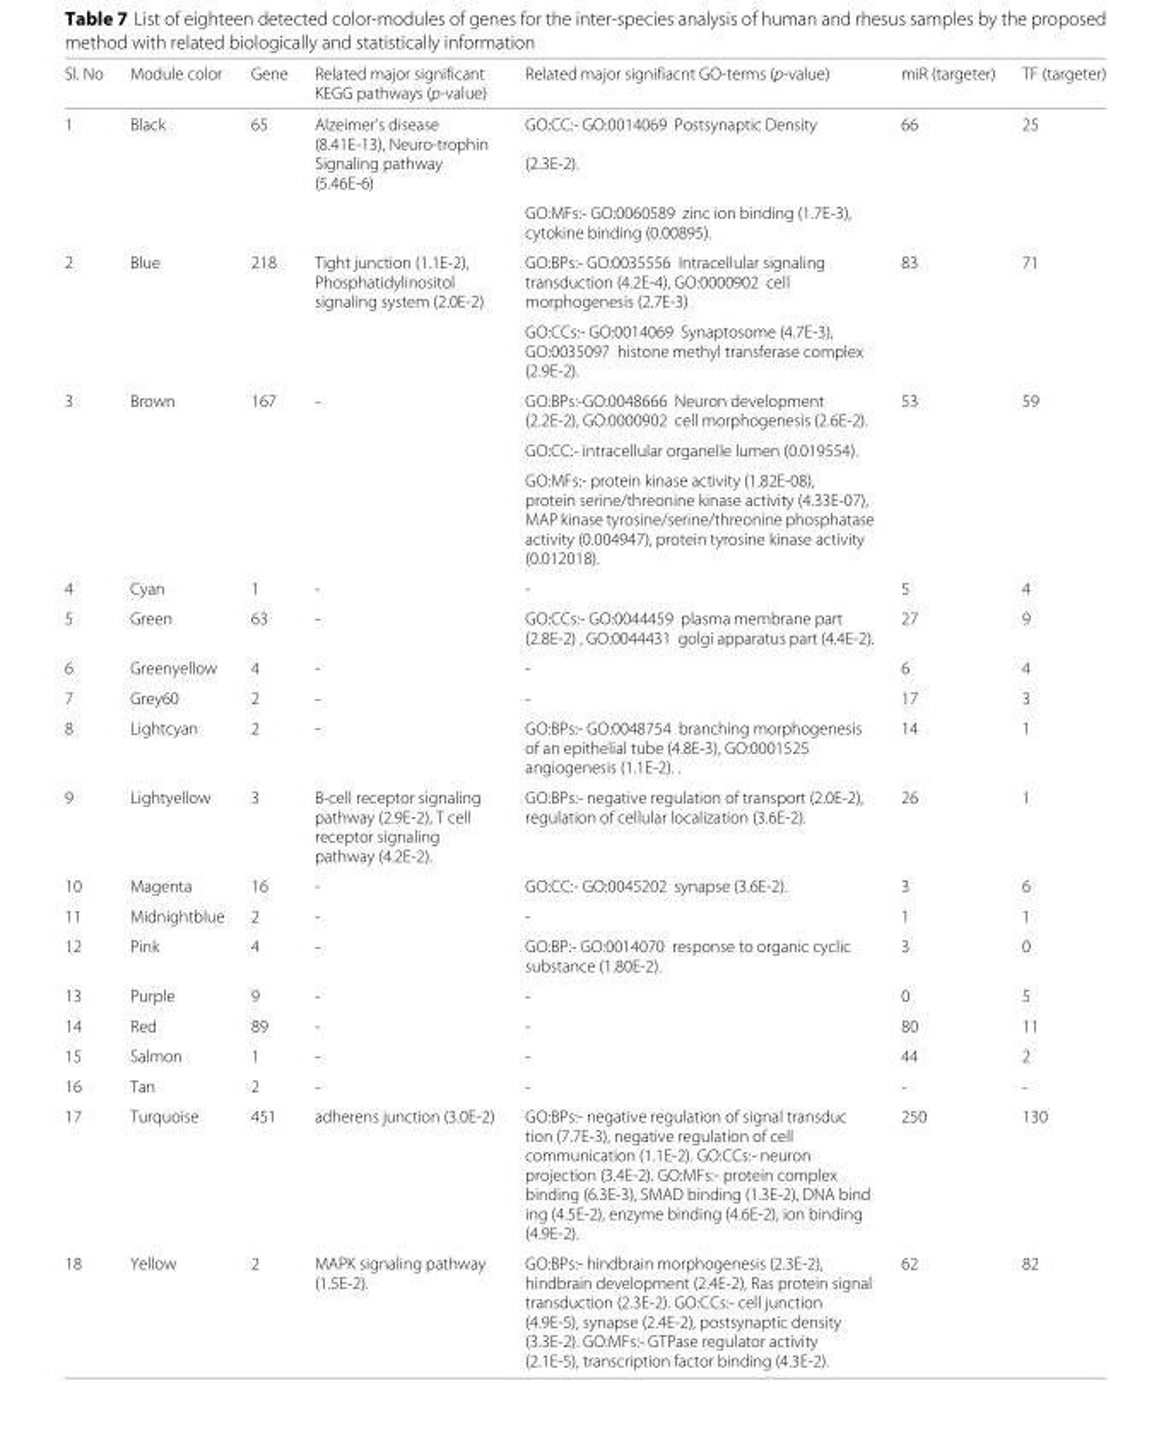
<table><thead><tr><td>Sl. No</td><td>Module color</td><td>Gene</td><td>Related major significant KEGG pathways (p-value)</td><td>Related major signifiacnt GO-terms (p-value)</td><td>miR (targeter)</td><td>TF (targeter)</td></tr></thead><tbody><tr><td rowspan="2">1</td><td>Black</td><td>65</td><td>Alzeimer’s disease (8.41E-13), Neuro-trophin Signaling pathway (5.46E-6)</td><td>GO:CC:- GO:0014069 Postsynaptic Density (2.3E-2).</td><td>66</td><td>25</td></tr><tr><td></td><td></td><td></td><td>GO:MFs:- GO:0060589 zinc ion binding (1.7E-3), cytokine binding (0.00895).</td><td></td><td></td></tr><tr><td rowspan="2">2</td><td>Blue</td><td>218</td><td>Tight junction (1.1E-2), Phosphatidylinositol signaling system (2.0E-2)</td><td>GO:BPs:- GO:0035556 Intracellular signaling transduction (4.2E-4), GO:0000902 cell morphogenesis (2.7E-3)</td><td>83</td><td>71</td></tr><tr><td></td><td></td><td></td><td>GO:CCs:- GO:0014069 Synaptosome (4.7E-3), GO:0035097 histone methyl transferase complex (2.9E-2).</td><td></td><td></td></tr><tr><td rowspan="3">3</td><td>Brown</td><td>167</td><td>-</td><td>GO:BPs:-GO:0048666 Neuron development (2.2E-2), GO:0000902 cell morphogenesis (2.6E-2).</td><td>53</td><td>59</td></tr><tr><td></td><td></td><td></td><td>GO:CC:- intracellular organelle lumen (0.019554).</td><td></td><td></td></tr><tr><td></td><td></td><td></td><td>GO:MFs:- protein kinase activity (1.82E-08), protein serine/threonine kinase activity (4.33E-07), MAP kinase tyrosine/serine/threonine phosphatase activity (0.004947), protein tyrosine kinase activity (0.012018).</td><td></td><td></td></tr><tr><td>4</td><td>Cyan</td><td>1</td><td>-</td><td>-</td><td>5</td><td>4</td></tr><tr><td>5</td><td>Green</td><td>63</td><td>-</td><td>GO:CCs:- GO:0044459 plasma membrane part (2.8E-2) , GO:0044431 golgi apparatus part (4.4E-2).</td><td>27</td><td>9</td></tr><tr><td>6</td><td>Greenyellow</td><td>4</td><td>-</td><td>-</td><td>6</td><td>4</td></tr><tr><td>7</td><td>Grey60</td><td>2</td><td>-</td><td>-</td><td>17</td><td>3</td></tr><tr><td>8</td><td>Lightcyan</td><td>2</td><td>-</td><td>GO:BPs:- GO:0048754 branching morphogenesis of an epithelial tube (4.8E-3), GO:0001525 angiogenesis (1.1E-2). .</td><td>14</td><td>1</td></tr><tr><td>9</td><td>Lightyellow</td><td>3</td><td>B-cell receptor signaling pathway (2.9E-2), T cell receptor signaling pathway (4.2E-2).</td><td>GO:BPs:- negative regulation of transport (2.0E-2), regulation of cellular localization (3.6E-2).</td><td>26</td><td>1</td></tr><tr><td>10</td><td>Magenta</td><td>16</td><td>-</td><td>GO:CC:- GO:0045202 synapse (3.6E-2).</td><td>3</td><td>6</td></tr><tr><td>11</td><td>Midnightblue</td><td>2</td><td>-</td><td>-</td><td>1</td><td>1</td></tr><tr><td>12</td><td>Pink</td><td>4</td><td>-</td><td>GO:BP:- GO:0014070 response to organic cyclic substance (1.80E-2).</td><td>3</td><td>0</td></tr><tr><td>13</td><td>Purple</td><td>9</td><td>-</td><td>-</td><td>0</td><td>5</td></tr><tr><td>14</td><td>Red</td><td>89</td><td>-</td><td>-</td><td>80</td><td>11</td></tr><tr><td>15</td><td>Salmon</td><td>1</td><td>-</td><td>-</td><td>44</td><td>2</td></tr><tr><td>16</td><td>Tan</td><td>2</td><td>-</td><td>-</td><td>-</td><td>-</td></tr><tr><td>17</td><td>Turquoise</td><td>451</td><td>adherens junction (3.0E-2)</td><td>GO:BPs:- negative regulation of signal transduc tion (7.7E-3), negative regulation of cell communication (1.1E-2). GO:CCs:- neuron projection (3.4E-2). GO:MFs:- protein complex binding (6.3E-3), SMAD binding (1.3E-2), DNA bind ing (4.5E-2), enzyme binding (4.6E-2), ion binding (4.9E-2).</td><td>250</td><td>130</td></tr><tr><td>18</td><td>Yellow</td><td>2</td><td>MAPK signaling pathway (1.5E-2).</td><td>GO:BPs:- hindbrain morphogenesis (2.3E-2), hindbrain development (2.4E-2), Ras protein signal transduction (2.3E-2). GO:CCs:- cell junction (4.9E-5), synapse (2.4E-2), postsynaptic density (3.3E-2). GO:MFs:- GTPase regulator activity (2.1E-5), transcription factor binding (4.3E-2).</td><td>62</td><td>82</td></tr></tbody></table>